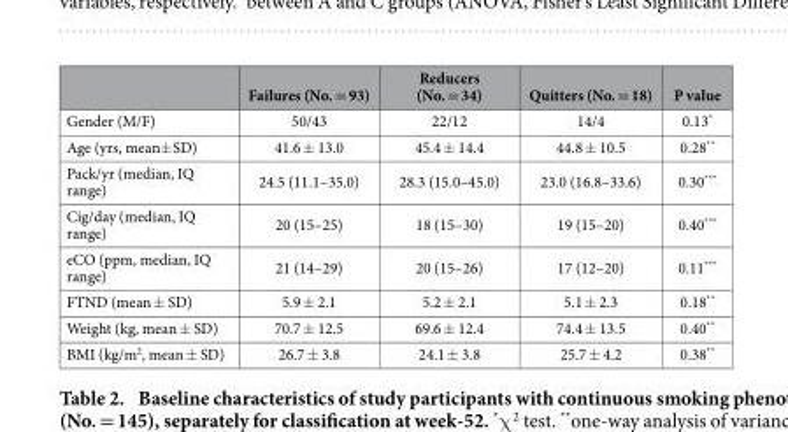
<table><thead><tr><td></td><td>Failures (No. = 93)</td><td>Reducers (No. = 34)</td><td>Quitters (No. = 18)</td><td>P value</td></tr></thead><tbody><tr><td>Gender (M/F)</td><td>50/43</td><td>22/12</td><td>14/4</td><td>0.13*</td></tr><tr><td>Age (yrs, mean± SD)</td><td>41.6 ± 13.0</td><td>45.4 ± 14.4</td><td>44.8 ± 10.5</td><td>0.28**</td></tr><tr><td>Pack/yr (median, IQ range)</td><td>24.5 (11.1–35.0)</td><td>28.3 (15.0–45.0)</td><td>23.0 (16.8–33.6)</td><td>0.30***</td></tr><tr><td>Cig/day (median, IQ range)</td><td>20 (15–25)</td><td>18 (15–30)</td><td>19 (15–20)</td><td>0.40***</td></tr><tr><td>eCO (ppm, median, IQ range)</td><td>21 (14–29)</td><td>20 (15–26)</td><td>17 (12–20)</td><td>0.11***</td></tr><tr><td>FTND (mean ± SD)</td><td>5.9 ± 2.1</td><td>5.2 ± 2.1</td><td>5.1 ± 2.3</td><td>0.18**</td></tr><tr><td>Weight (kg, mean ± SD)</td><td>70.7 ± 12.5</td><td>69.6 ± 12.4</td><td>74.4 ± 13.5</td><td>0.40**</td></tr><tr><td>BMI (kg/m<sup>2</sup>, mean ± SD)</td><td>26.7 ± 3.8</td><td>24.1 ± 3.8</td><td>25.7 ± 4.2</td><td>0.38**</td></tr></tbody></table>